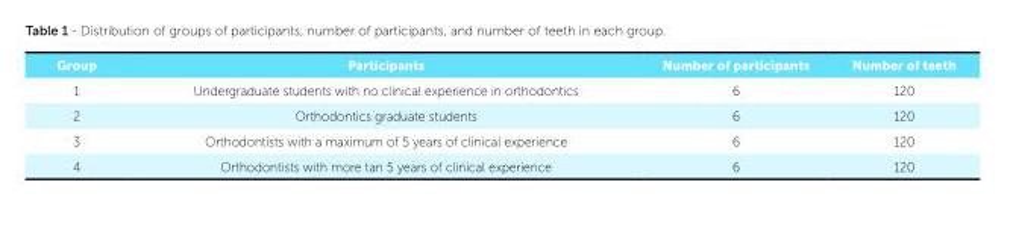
<table><tbody><tr><td>Group</td><td>Participants</td><td>Number of participants</td><td>Number of teeth</td></tr><tr><td>1</td><td>Undergraduate students with no clinical experience in orthodontics</td><td>6</td><td>120</td></tr><tr><td>2</td><td>Orthodontics graduate students</td><td>6</td><td>120</td></tr><tr><td>3</td><td>Orthodontists with a maximum of 5 years of clinical experience</td><td>6</td><td>120</td></tr><tr><td>4</td><td>Orthodontists with more tan 5 years of clinical experience</td><td>6</td><td>120</td></tr></tbody></table>